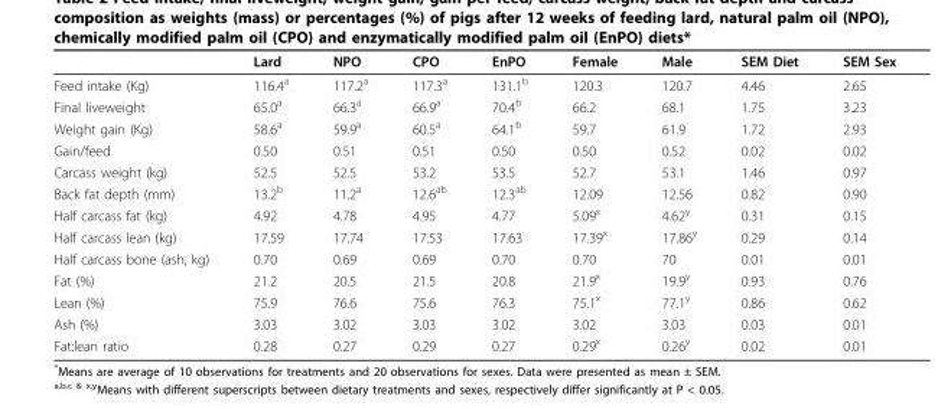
<table><thead><tr><td></td><td>Lard</td><td>NPO</td><td>CPO</td><td>EnPO</td><td>Female</td><td>Male</td><td>SEM Diet</td><td>SEM Sex</td></tr></thead><tbody><tr><td>Feed intake (Kg)</td><td>116.4<sup>a</sup></td><td>117.2<sup>a</sup></td><td>117.3<sup>a</sup></td><td>131.1<sup>b</sup></td><td>120.3</td><td>120.7</td><td>4.46</td><td>2.65</td></tr><tr><td>Final liveweight</td><td>65.0<sup>a</sup></td><td>66.3<sup>a</sup></td><td>66.9<sup>a</sup></td><td>70.4<sup>b</sup></td><td>66.2</td><td>68.1</td><td>1.75</td><td>3.23</td></tr><tr><td>Weight gain (Kg)</td><td>58.6<sup>a</sup></td><td>59.9<sup>a</sup></td><td>60.5<sup>a</sup></td><td>64.1<sup>b</sup></td><td>59.7</td><td>61.9</td><td>1.72</td><td>2.93</td></tr><tr><td>Gain/feed</td><td>0.50</td><td>0.51</td><td>0.51</td><td>0.50</td><td>0.50</td><td>0.52</td><td>0.02</td><td>0.02</td></tr><tr><td>Carcass weight (kg)</td><td>52.5</td><td>52.5</td><td>53.2</td><td>53.5</td><td>52.7</td><td>53.1</td><td>1.46</td><td>0.97</td></tr><tr><td>Back fat depth (mm)</td><td>13.2<sup>b</sup></td><td>11.2<sup>a</sup></td><td>12.6<sup>ab</sup></td><td>12.3<sup>ab</sup></td><td>12.09</td><td>12.56</td><td>0.82</td><td>0.90</td></tr><tr><td>Half carcass fat (kg)</td><td>4.92</td><td>4.78</td><td>4.95</td><td>4.77</td><td>5.09<sup>x</sup></td><td>4.62<sup>y</sup></td><td>0.31</td><td>0.15</td></tr><tr><td>Half carcass lean (kg)</td><td>17.59</td><td>17.74</td><td>17.53</td><td>17.63</td><td>17.39<sup>x</sup></td><td>17.86<sup>y</sup></td><td>0.29</td><td>0.14</td></tr><tr><td>Half carcass bone (ash, kg)</td><td>0.70</td><td>0.69</td><td>0.69</td><td>0.70</td><td>0.70</td><td>70</td><td>0.01</td><td>0.01</td></tr><tr><td>Fat (%)</td><td>21.2</td><td>20.5</td><td>21.5</td><td>20.8</td><td>21.9<sup>x</sup></td><td>19.9<sup>y</sup></td><td>0.93</td><td>0.76</td></tr><tr><td>Lean (%)</td><td>75.9</td><td>76.6</td><td>75.6</td><td>76.3</td><td>75.1<sup>x</sup></td><td>77.1<sup>y</sup></td><td>0.86</td><td>0.62</td></tr><tr><td>Ash (%)</td><td>3.03</td><td>3.02</td><td>3.03</td><td>3.02</td><td>3.02</td><td>3.03</td><td>0.03</td><td>0.01</td></tr><tr><td>Fat:lean ratio</td><td>0.28</td><td>0.27</td><td>0.29</td><td>0.27</td><td>0.29<sup>x</sup></td><td>0.26<sup>y</sup></td><td>0.02</td><td>0.01</td></tr></tbody></table>